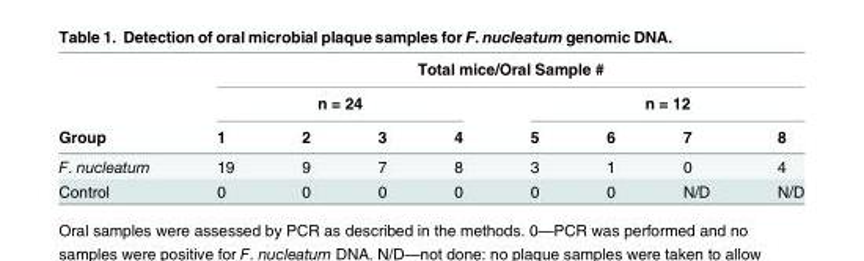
<table><thead><tr><td rowspan="3">Group</td><td colspan="8">Total mice/Oral Sample #</td></tr><tr><td colspan="4">n = 24</td><td colspan="4">n = 12</td></tr><tr><td>1</td><td>2</td><td>3</td><td>4</td><td>5</td><td>6</td><td>7</td><td>8</td></tr></thead><tbody><tr><td>F. nucleatum</td><td>19</td><td>9</td><td>7</td><td>8</td><td>3</td><td>1</td><td>0</td><td>4</td></tr><tr><td>Control</td><td>0</td><td>0</td><td>0</td><td>0</td><td>0</td><td>0</td><td>N/D</td><td>N/D</td></tr></tbody></table>